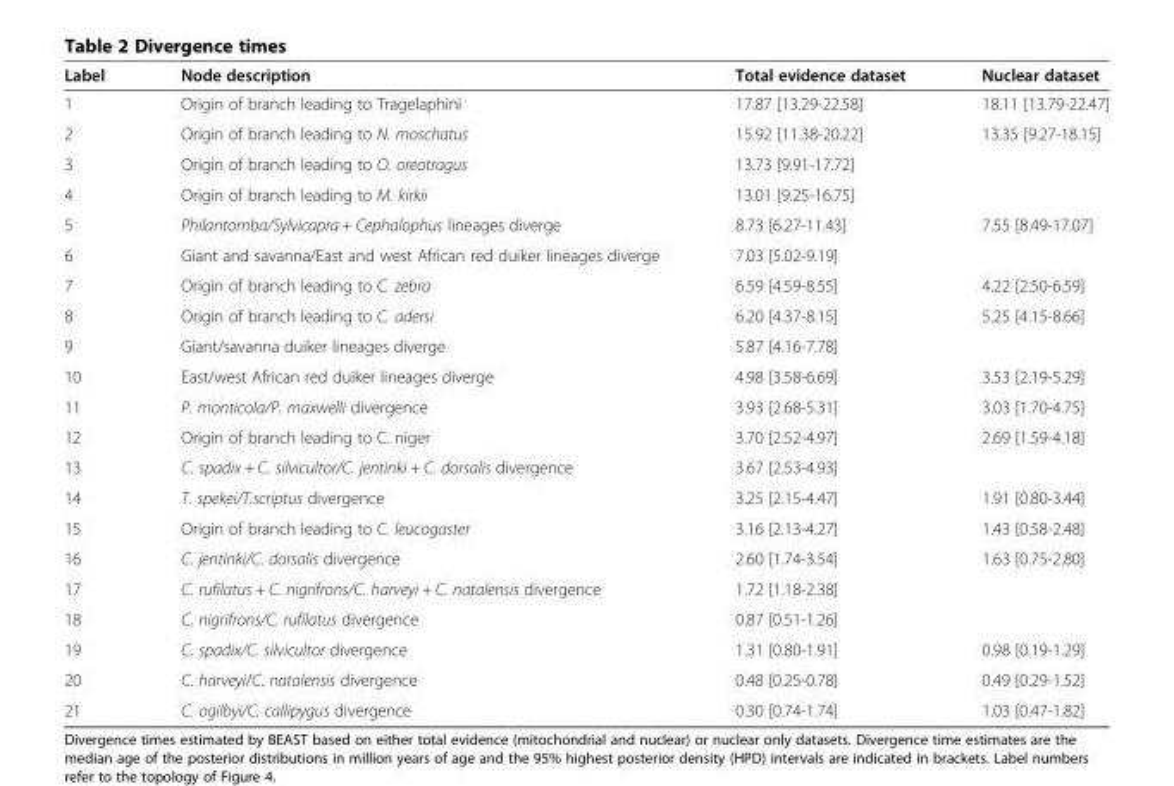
<table><thead><tr><td>Label</td><td>Node description</td><td>Total evidence dataset</td><td>Nuclear dataset</td></tr></thead><tbody><tr><td>1</td><td>Origin of branch leading to Tragelaphini</td><td>17.87 [13.29-22.58]</td><td>18.11 [13.79-22.47]</td></tr><tr><td>2</td><td>Origin of branch leading to N. moschatus</td><td>15.92 [11.38-20.22]</td><td>13.35 [9.27-18.15]</td></tr><tr><td>3</td><td>Origin of branch leading to O. oreotragus</td><td>13.73 [9.91-17.72]</td><td></td></tr><tr><td>4</td><td>Origin of branch leading to M. kirkii</td><td>13.01 [9.25-16.75]</td><td></td></tr><tr><td>5</td><td>Philantomba/Sylvicapra + Cephalophus lineages diverge</td><td>8.73 [6.27-11.43]</td><td>7.55 [8.49-17.07]</td></tr><tr><td>6</td><td>Giant and savanna/East and west African red duiker lineages diverge</td><td>7.03 [5.02-9.19]</td><td></td></tr><tr><td>7</td><td>Origin of branch leading to C. zebra</td><td>6.59 [4.59-8.55]</td><td>4.22 [2.50-6.59]</td></tr><tr><td>8</td><td>Origin of branch leading to C. adersi</td><td>6.20 [4.37-8.15]</td><td>5.25 [4.15-8.66]</td></tr><tr><td>9</td><td>Giant/savanna duiker lineages diverge</td><td>5.87 [4.16-7.78]</td><td></td></tr><tr><td>10</td><td>East/west African red duiker lineages diverge</td><td>4.98 [3.58-6.69]</td><td>3.53 [2.19-5.29]</td></tr><tr><td>11</td><td>P. monticola/P. maxwelli divergence</td><td>3.93 [2.68-5.31]</td><td>3.03 [1.70-4.75]</td></tr><tr><td>12</td><td>Origin of branch leading to C. niger</td><td>3.70 [2.52-4.97]</td><td>2.69 [1.59-4.18]</td></tr><tr><td>13</td><td>C. spadix + C. silvicultor/C. jentinki + C. dorsalis divergence</td><td>3.67 [2.53-4.93]</td><td></td></tr><tr><td>14</td><td>T. spekei/T.scriptus divergence</td><td>3.25 [2.15-4.47]</td><td>1.91 [0.80-3.44]</td></tr><tr><td>15</td><td>Origin of branch leading to C. leucogaster</td><td>3.16 [2.13-4.27]</td><td>1.43 [0.58-2.48]</td></tr><tr><td>16</td><td>C. jentinki/C. dorsalis divergence</td><td>2.60 [1.74-3.54]</td><td>1.63 [0.75-2.80]</td></tr><tr><td>17</td><td>C. rufilatus + C. nigrifrons/C. harveyi + C. natalensis divergence</td><td>1.72 [1.18-2.38]</td><td></td></tr><tr><td>18</td><td>C. nigrifrons/C. rufilatus divergence</td><td>0.87 [0.51-1.26]</td><td></td></tr><tr><td>19</td><td>C. spadix/C. silvicultor divergence</td><td>1.31 [0.80-1.91]</td><td>0.98 [0.19-1.29]</td></tr><tr><td>20</td><td>C. harveyi/C. natalensis divergence</td><td>0.48 [0.25-0.78]</td><td>0.49 [0.29-1.52]</td></tr><tr><td>21</td><td>C. ogilbyi/C. callipygus divergence</td><td>0.30 [0.74-1.74]</td><td>1.03 [0.47-1.82]</td></tr></tbody></table>